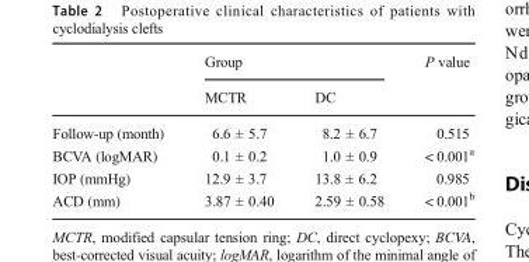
<table><thead><tr><td rowspan="2"></td><td colspan="2">Group</td><td rowspan="2">P value</td></tr><tr><td>MCTR</td><td>DC</td></tr></thead><tbody><tr><td>Follow-up (month)</td><td>6.6 ± 5.7</td><td>8.2 ± 6.7</td><td>0.515</td></tr><tr><td>BCVA (logMAR)</td><td>0.1 ± 0.2</td><td>1.0 ± 0.9</td><td>&lt; 0.001<sup>a</sup></td></tr><tr><td>IOP (mmHg)</td><td>12.9 ± 3.7</td><td>13.8 ± 6.2</td><td>0.985</td></tr><tr><td>ACD (mm)</td><td>3.87 ± 0.40</td><td>2.59 ± 0.58</td><td>&lt; 0.001<sup>b</sup></td></tr></tbody></table>